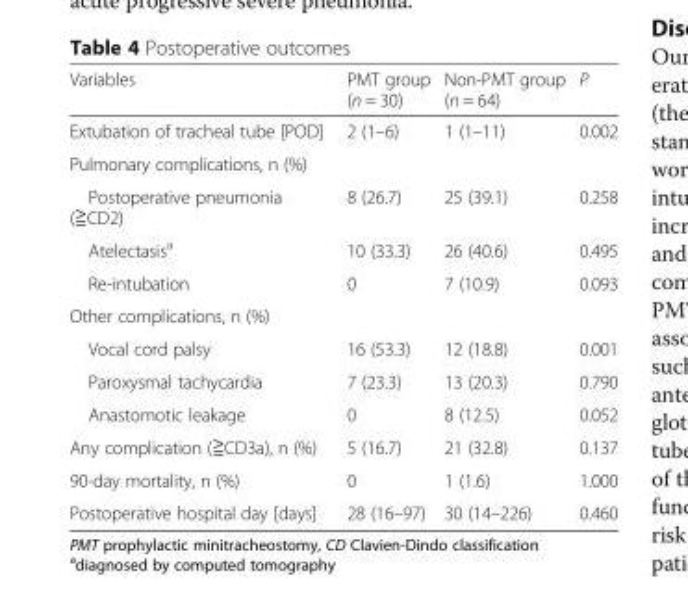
<table><thead><tr><td>Variables</td><td>PMT group (n = 30)</td><td>Non-PMT group (n = 64)</td><td>P</td></tr></thead><tbody><tr><td>Extubation of tracheal tube [POD]</td><td>2 (1–6)</td><td>1 (1–11)</td><td>0.002</td></tr><tr><td colspan="4">Pulmonary complications, n (%)</td></tr><tr><td>Postoperative pneumonia (≧CD2)</td><td>8 (26.7)</td><td>25 (39.1)</td><td>0.258</td></tr><tr><td>Atelectasis<sup>a</sup></td><td>10 (33.3)</td><td>26 (40.6)</td><td>0.495</td></tr><tr><td>Re-intubation</td><td>0</td><td>7 (10.9)</td><td>0.093</td></tr><tr><td colspan="4">Other complications, n (%)</td></tr><tr><td>Vocal cord palsy</td><td>16 (53.3)</td><td>12 (18.8)</td><td>0.001</td></tr><tr><td>Paroxysmal tachycardia</td><td>7 (23.3)</td><td>13 (20.3)</td><td>0.790</td></tr><tr><td>Anastomotic leakage</td><td>0</td><td>8 (12.5)</td><td>0.052</td></tr><tr><td>Any complication (≧CD3a), n (%)</td><td>5 (16.7)</td><td>21 (32.8)</td><td>0.137</td></tr><tr><td>90-day mortality, n (%)</td><td>0</td><td>1 (1.6)</td><td>1.000</td></tr><tr><td>Postoperative hospital day [days]</td><td>28 (16–97)</td><td>30 (14–226)</td><td>0.460</td></tr></tbody></table>